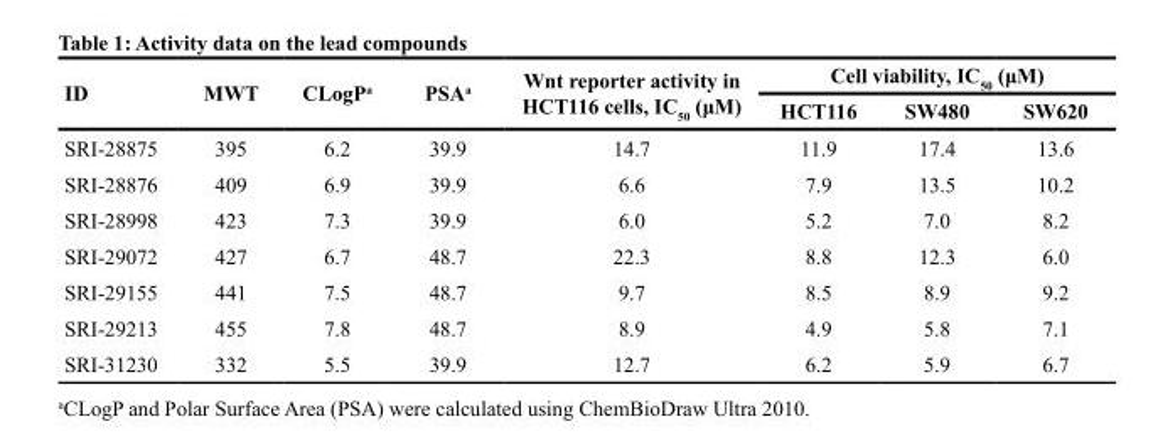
<table><thead><tr><td rowspan="2">ID</td><td rowspan="2">MWT</td><td rowspan="2">CLogP<sup>a</sup></td><td rowspan="2">PSA<sup>a</sup></td><td rowspan="2">Wnt reporter activity in HCT116 cells, IC<sub>50</sub> (μM)</td><td colspan="3">Cell viability, IC<sub>50</sub> (μM)</td></tr><tr><td>HCT116</td><td>SW480</td><td>SW620</td></tr></thead><tbody><tr><td>SRI-28875</td><td>395</td><td>6.2</td><td>39.9</td><td>14.7</td><td>11.9</td><td>17.4</td><td>13.6</td></tr><tr><td>SRI-28876</td><td>409</td><td>6.9</td><td>39.9</td><td>6.6</td><td>7.9</td><td>13.5</td><td>10.2</td></tr><tr><td>SRI-28998</td><td>423</td><td>7.3</td><td>39.9</td><td>6.0</td><td>5.2</td><td>7.0</td><td>8.2</td></tr><tr><td>SRI-29072</td><td>427</td><td>6.7</td><td>48.7</td><td>22.3</td><td>8.8</td><td>12.3</td><td>6.0</td></tr><tr><td>SRI-29155</td><td>441</td><td>7.5</td><td>48.7</td><td>9.7</td><td>8.5</td><td>8.9</td><td>9.2</td></tr><tr><td>SRI-29213</td><td>455</td><td>7.8</td><td>48.7</td><td>8.9</td><td>4.9</td><td>5.8</td><td>7.1</td></tr><tr><td>SRI-31230</td><td>332</td><td>5.5</td><td>39.9</td><td>12.7</td><td>6.2</td><td>5.9</td><td>6.7</td></tr></tbody></table>